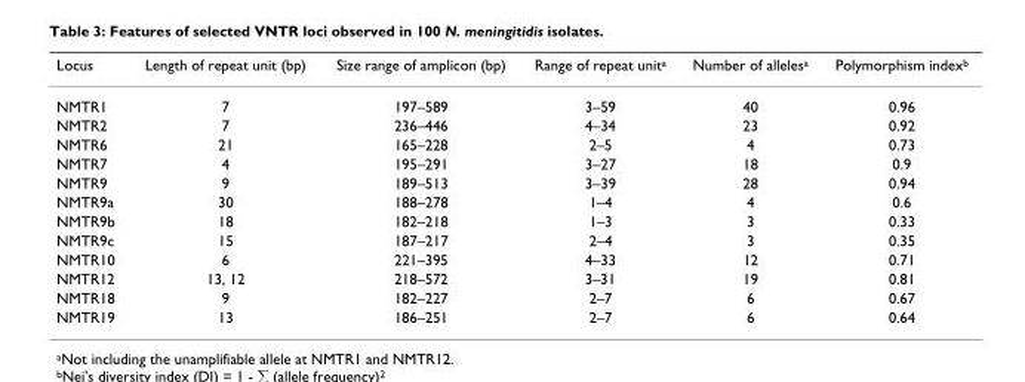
<table><thead><tr><td>Locus</td><td>Length of repeat unit (bp)</td><td>Size range of amplicon (bp)</td><td>Range of repeat unita</td><td>Number of allelesa</td><td>Polymorphism indexb</td></tr></thead><tbody><tr><td>NMTR1</td><td>7</td><td>197–589</td><td>3–59</td><td>40</td><td>0.96</td></tr><tr><td>NMTR2</td><td>7</td><td>236–446</td><td>4–34</td><td>23</td><td>0.92</td></tr><tr><td>NMTR6</td><td>21</td><td>165–228</td><td>2–5</td><td>4</td><td>0.73</td></tr><tr><td>NMTR7</td><td>4</td><td>195–291</td><td>3–27</td><td>18</td><td>0.9</td></tr><tr><td>NMTR9</td><td>9</td><td>189–513</td><td>3–39</td><td>28</td><td>0.94</td></tr><tr><td>NMTR9a</td><td>30</td><td>188–278</td><td>1–4</td><td>4</td><td>0.6</td></tr><tr><td>NMTR9b</td><td>18</td><td>182–218</td><td>1–3</td><td>3</td><td>0.33</td></tr><tr><td>NMTR9c</td><td>15</td><td>187–217</td><td>2–4</td><td>3</td><td>0.35</td></tr><tr><td>NMTR10</td><td>6</td><td>221–395</td><td>4–33</td><td>12</td><td>0.71</td></tr><tr><td>NMTR12</td><td>13, 12</td><td>218–572</td><td>3–31</td><td>19</td><td>0.81</td></tr><tr><td>NMTR18</td><td>9</td><td>182–227</td><td>2–7</td><td>6</td><td>0.67</td></tr><tr><td>NMTR19</td><td>13</td><td>186–251</td><td>2–7</td><td>6</td><td>0.64</td></tr></tbody></table>